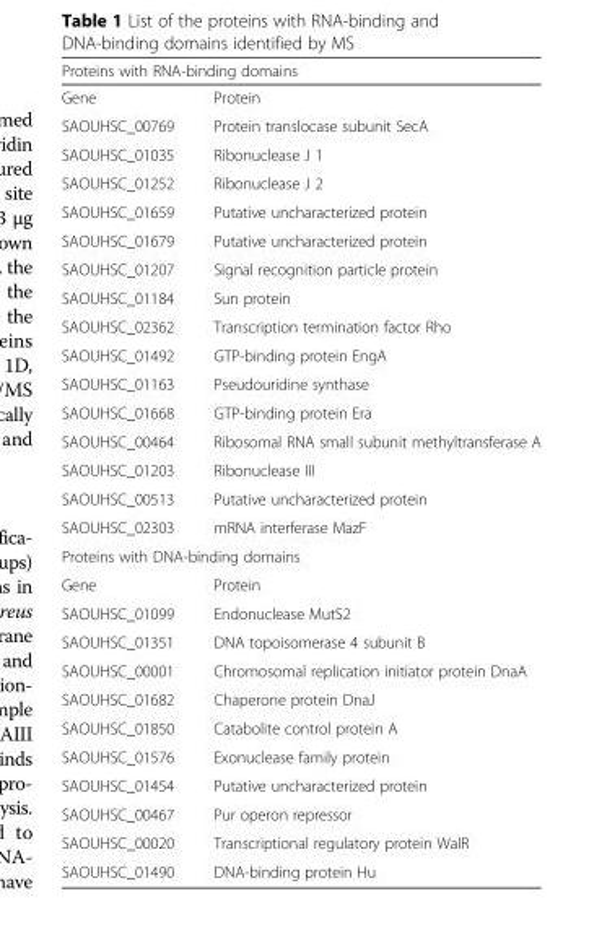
<table><thead><tr><td colspan="2">Proteins with RNA-binding domains</td></tr><tr><td>Gene</td><td>Protein</td></tr></thead><tbody><tr><td>SAOUHSC_00769</td><td>Protein translocase subunit SecA</td></tr><tr><td>SAOUHSC_01035</td><td>Ribonuclease J 1</td></tr><tr><td>SAOUHSC_01252</td><td>Ribonuclease J 2</td></tr><tr><td>SAOUHSC_01659</td><td>Putative uncharacterized protein</td></tr><tr><td>SAOUHSC_01679</td><td>Putative uncharacterized protein</td></tr><tr><td>SAOUHSC_01207</td><td>Signal recognition particle protein</td></tr><tr><td>SAOUHSC_01184</td><td>Sun protein</td></tr><tr><td>SAOUHSC_02362</td><td>Transcription termination factor Rho</td></tr><tr><td>SAOUHSC_01492</td><td>GTP-binding protein EngA</td></tr><tr><td>SAOUHSC_01163</td><td>Pseudouridine synthase</td></tr><tr><td>SAOUHSC_01668</td><td>GTP-binding protein Era</td></tr><tr><td>SAOUHSC_00464</td><td>Ribosomal RNA small subunit methyltransferase A</td></tr><tr><td>SAOUHSC_01203</td><td>Ribonuclease III</td></tr><tr><td>SAOUHSC_00513</td><td>Putative uncharacterized protein</td></tr><tr><td>SAOUHSC_02303</td><td>mRNA interferase MazF</td></tr><tr><td colspan="2">Proteins with DNA-binding domains</td></tr><tr><td>Gene</td><td>Protein</td></tr><tr><td>SAOUHSC_01099</td><td>Endonuclease MutS2</td></tr><tr><td>SAOUHSC_01351</td><td>DNA topoisomerase 4 subunit B</td></tr><tr><td>SAOUHSC_00001</td><td>Chromosomal replication initiator protein DnaA</td></tr><tr><td>SAOUHSC_01682</td><td>Chaperone protein DnaJ</td></tr><tr><td>SAOUHSC_01850</td><td>Catabolite control protein A</td></tr><tr><td>SAOUHSC_01576</td><td>Exonuclease family protein</td></tr><tr><td>SAOUHSC_01454</td><td>Putative uncharacterized protein</td></tr><tr><td>SAOUHSC_00467</td><td>Pur operon repressor</td></tr><tr><td>SAOUHSC_00020</td><td>Transcriptional regulatory protein WalR</td></tr><tr><td>SAOUHSC_01490</td><td>DNA-binding protein Hu</td></tr></tbody></table>